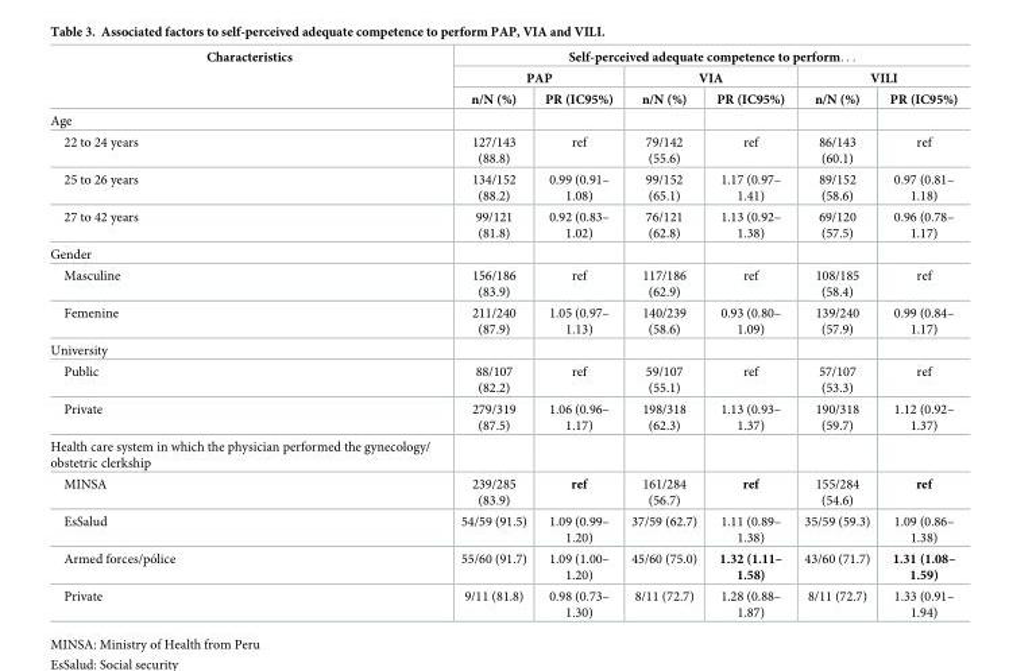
<table><thead><tr><td rowspan="3">Characteristics</td><td colspan="6">Self-perceived adequate competence to perform. . .</td></tr><tr><td colspan="2">PAP</td><td colspan="2">VIA</td><td colspan="2">VILI</td></tr><tr><td>n/N (%)</td><td>PR (IC95%)</td><td>n/N (%)</td><td>PR (IC95%)</td><td>n/N (%)</td><td>PR (IC95%)</td></tr></thead><tbody><tr><td colspan="7">Age</td></tr><tr><td>22 to 24 years</td><td>127/143 (88.8)</td><td>ref</td><td>79/142 (55.6)</td><td>ref</td><td>86/143 (60.1)</td><td>ref</td></tr><tr><td>25 to 26 years</td><td>134/152 (88.2)</td><td>0.99 (0.91– 1.08)</td><td>99/152 (65.1)</td><td>1.17 (0.97– 1.41)</td><td>89/152 (58.6)</td><td>0.97 (0.81– 1.18)</td></tr><tr><td>27 to 42 years</td><td>99/121 (81.8)</td><td>0.92 (0.83– 1.02)</td><td>76/121 (62.8)</td><td>1.13 (0.92– 1.38)</td><td>69/120 (57.5)</td><td>0.96 (0.78– 1.17)</td></tr><tr><td colspan="7">Gender</td></tr><tr><td>Masculine</td><td>156/186 (83.9)</td><td>ref</td><td>117/186 (62.9)</td><td>ref</td><td>108/185 (58.4)</td><td>ref</td></tr><tr><td>Femenine</td><td>211/240 (87.9)</td><td>1.05 (0.97– 1.13)</td><td>140/239 (58.6)</td><td>0.93 (0.80– 1.09)</td><td>139/240 (57.9)</td><td>0.99 (0.84– 1.17)</td></tr><tr><td colspan="7">University</td></tr><tr><td>Public</td><td>88/107 (82.2)</td><td>ref</td><td>59/107 (55.1)</td><td>ref</td><td>57/107 (53.3)</td><td>ref</td></tr><tr><td>Private</td><td>279/319 (87.5)</td><td>1.06 (0.96– 1.17)</td><td>198/318 (62.3)</td><td>1.13 (0.93– 1.37)</td><td>190/318 (59.7)</td><td>1.12 (0.92– 1.37)</td></tr><tr><td colspan="7">Health care system in which the physician performed the gynecology/ obstetric clerkship</td></tr><tr><td>MINSA</td><td>239/285 (83.9)</td><td>ref</td><td>161/284 (56.7)</td><td>ref</td><td>155/284 (54.6)</td><td>ref</td></tr><tr><td>EsSalud</td><td>54/59 (91.5)</td><td>1.09 (0.99– 1.20)</td><td>37/59 (62.7)</td><td>1.11 (0.89– 1.38)</td><td>35/59 (59.3)</td><td>1.09 (0.86– 1.38)</td></tr><tr><td>Armed forces/po´lice</td><td>55/60 (91.7)</td><td>1.09 (1.00– 1.20)</td><td>45/60 (75.0)</td><td>1.32 (1.11– 1.58)</td><td>43/60 (71.7)</td><td>1.31 (1.08– 1.59)</td></tr><tr><td>Private</td><td>9/11 (81.8)</td><td>0.98 (0.73– 1.30)</td><td>8/11 (72.7)</td><td>1.28 (0.88– 1.87)</td><td>8/11 (72.7)</td><td>1.33 (0.91– 1.94)</td></tr></tbody></table>